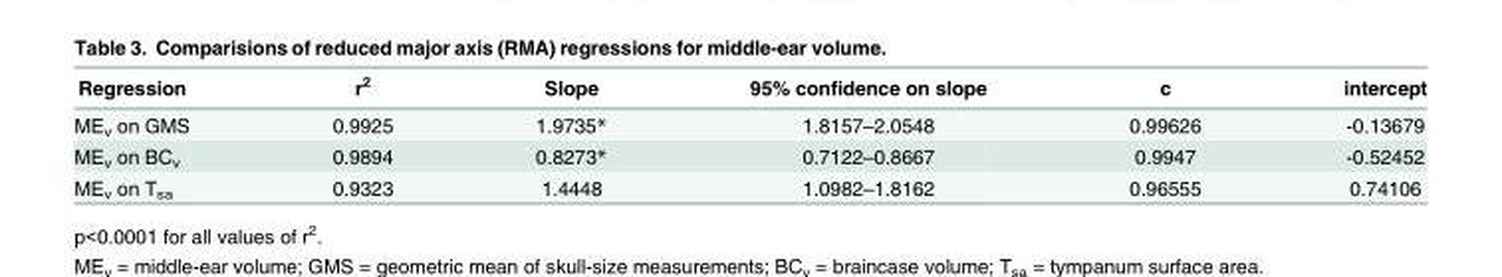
<table><thead><tr><td>Regression</td><td>r<sup>2</sup></td><td>Slope</td><td>95% confidence on slope</td><td>c</td><td>intercept</td></tr></thead><tbody><tr><td>ME<sub>v</sub> on GMS</td><td>0.9925</td><td>1.9735*</td><td>1.8157–2.0548</td><td>0.99626</td><td>-0.13679</td></tr><tr><td>ME<sub>v</sub> on BC<sub>v</sub></td><td>0.9894</td><td>0.8273*</td><td>0.7122–0.8667</td><td>0.9947</td><td>-0.52452</td></tr><tr><td>ME<sub>v</sub> on T<sub>sa</sub></td><td>0.9323</td><td>1.4448</td><td>1.0982–1.8162</td><td>0.96555</td><td>0.74106</td></tr></tbody></table>